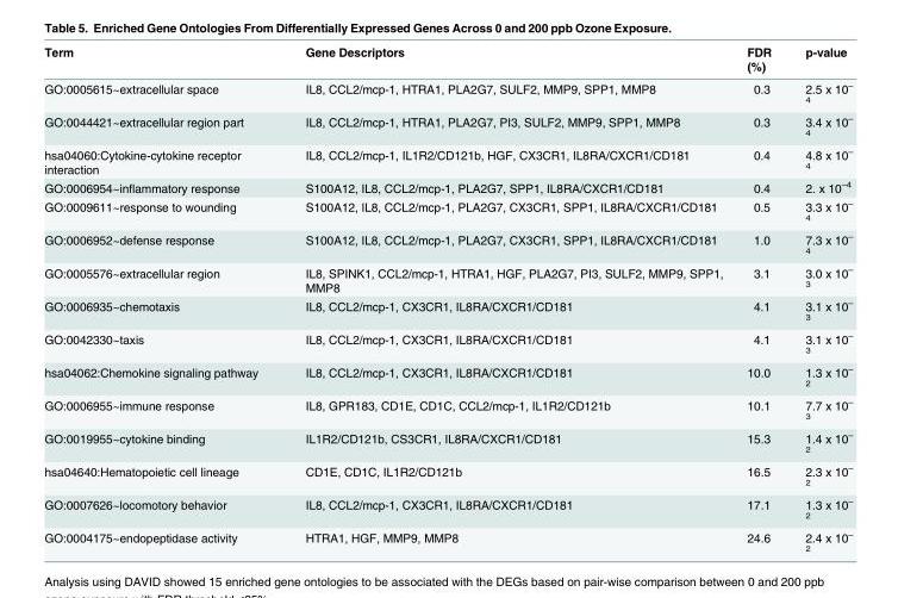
<table><thead><tr><td>Term</td><td>Gene Descriptors</td><td>FDR (%)</td><td>p-value</td></tr></thead><tbody><tr><td>GO:0005615~extracellular space</td><td>IL8, CCL2/mcp-1, HTRA1, PLA2G7, SULF2, MMP9, SPP1, MMP8</td><td>0.3</td><td>2.5 x 10<sup>– 4</sup></td></tr><tr><td>GO:0044421~extracellular region part</td><td>IL8, CCL2/mcp-1, HTRA1, PLA2G7, PI3, SULF2, MMP9, SPP1, MMP8</td><td>0.3</td><td>3.4 x 10<sup>– 4</sup></td></tr><tr><td>hsa04060:Cytokine-cytokine receptor interaction</td><td>IL8, CCL2/mcp-1, IL1R2/CD121b, HGF, CX3CR1, IL8RA/CXCR1/CD181</td><td>0.4</td><td>4.8 x 10<sup>– 4</sup></td></tr><tr><td>GO:0006954~inflammatory response</td><td>S100A12, IL8, CCL2/mcp-1, PLA2G7, SPP1, IL8RA/CXCR1/CD181</td><td>0.4</td><td>2. x 10<sup>–4</sup></td></tr><tr><td>GO:0009611~response to wounding</td><td>S100A12, IL8, CCL2/mcp-1, PLA2G7, CX3CR1, SPP1, IL8RA/CXCR1/CD181</td><td>0.5</td><td>3.3 x 10<sup>– 4</sup></td></tr><tr><td>GO:0006952~defense response</td><td>S100A12, IL8, CCL2/mcp-1, PLA2G7, CX3CR1, SPP1, IL8RA/CXCR1/CD181</td><td>1.0</td><td>7.3 x 10<sup>– 4</sup></td></tr><tr><td>GO:0005576~extracellular region</td><td>IL8, SPINK1, CCL2/mcp-1, HTRA1, HGF, PLA2G7, PI3, SULF2, MMP9, SPP1, MMP8</td><td>3.1</td><td>3.0 x 10<sup>– 3</sup></td></tr><tr><td>GO:0006935~chemotaxis</td><td>IL8, CCL2/mcp-1, CX3CR1, IL8RA/CXCR1/CD181</td><td>4.1</td><td>3.1 x 10<sup>– 3</sup></td></tr><tr><td>GO:0042330~taxis</td><td>IL8, CCL2/mcp-1, CX3CR1, IL8RA/CXCR1/CD181</td><td>4.1</td><td>3.1 x 10<sup>– 3</sup></td></tr><tr><td>hsa04062:Chemokine signaling pathway</td><td>IL8, CCL2/mcp-1, CX3CR1, IL8RA/CXCR1/CD181</td><td>10.0</td><td>1.3 x 10<sup>– 2</sup></td></tr><tr><td>GO:0006955~immune response</td><td>IL8, GPR183, CD1E, CD1C, CCL2/mcp-1, IL1R2/CD121b</td><td>10.1</td><td>7.7 x 10<sup>– 3</sup></td></tr><tr><td>GO:0019955~cytokine binding</td><td>IL1R2/CD121b, CS3CR1, IL8RA/CXCR1/CD181</td><td>15.3</td><td>1.4 x 10<sup>– 2</sup></td></tr><tr><td>hsa04640:Hematopoietic cell lineage</td><td>CD1E, CD1C, IL1R2/CD121b</td><td>16.5</td><td>2.3 x 10<sup>– 2</sup></td></tr><tr><td>GO:0007626~locomotory behavior</td><td>IL8, CCL2/mcp-1, CX3CR1, IL8RA/CXCR1/CD181</td><td>17.1</td><td>1.3 x 10<sup>– 2</sup></td></tr><tr><td>GO:0004175~endopeptidase activity</td><td>HTRA1, HGF, MMP9, MMP8</td><td>24.6</td><td>2.4 x 10<sup>– 2</sup></td></tr></tbody></table>